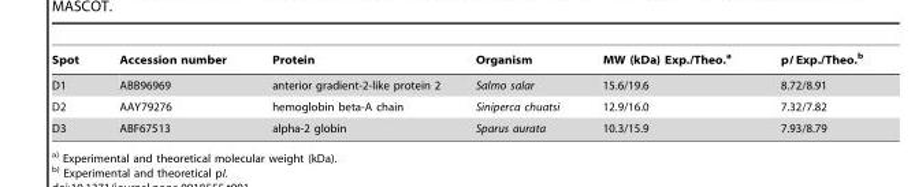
<table><thead><tr><td>Spot</td><td>Accession number</td><td>Protein</td><td>Organism</td><td>MW (kDa) Exp./Theo.<sup>a</sup></td><td>pI Exp./Theo.<sup>b</sup></td></tr></thead><tbody><tr><td>D1</td><td>ABB96969</td><td>anterior gradient-2-like protein 2</td><td>Salmo salar</td><td>15.6/19.6</td><td>8.72/8.91</td></tr><tr><td>D2</td><td>AAY79276</td><td>hemoglobin beta-A chain</td><td>Siniperca chuatsi</td><td>12.9/16.0</td><td>7.32/7.82</td></tr><tr><td>D3</td><td>ABF67513</td><td>alpha-2 globin</td><td>Sparus aurata</td><td>10.3/15.9</td><td>7.93/8.79</td></tr></tbody></table>